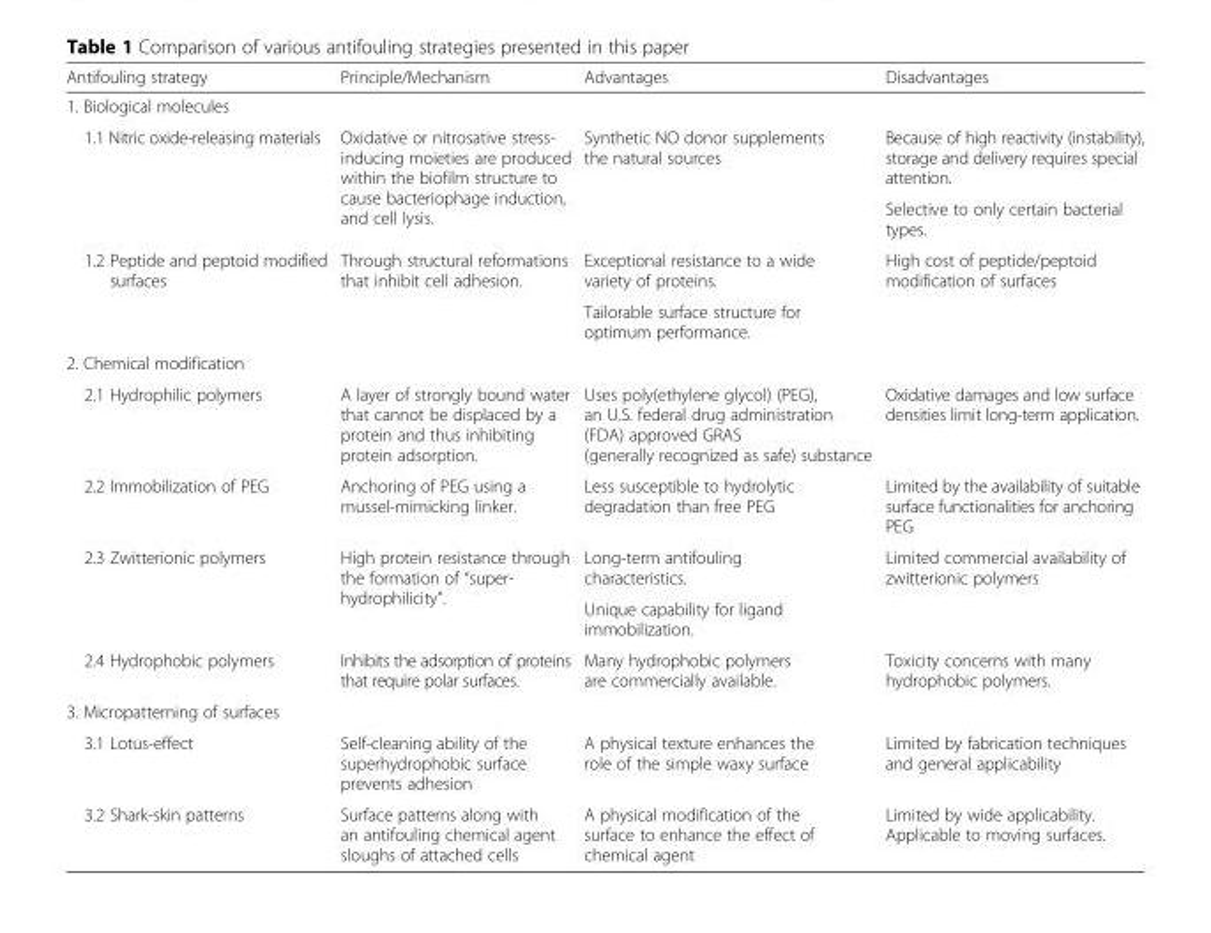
<table><thead><tr><td>Antifouling strategy</td><td>Principle/Mechanism</td><td>Advantages</td><td>Disadvantages</td></tr></thead><tbody><tr><td colspan="4">1. Biological molecules</td></tr><tr><td rowspan="2">1.1 Nitric oxide-releasing materials</td><td rowspan="2">Oxidative or nitrosative stress- inducing moieties are produced within the biofilm structure to cause bacteriophage induction, and cell lysis.</td><td rowspan="2">Synthetic NO donor supplements the natural sources</td><td>Because of high reactivity (instability), storage and delivery requires special attention.</td></tr><tr><td>Selective to only certain bacterial types.</td></tr><tr><td rowspan="2">1.2 Peptide and peptoid modified surfaces</td><td rowspan="2">Through structural reformations that inhibit cell adhesion.</td><td>Exceptional resistance to a wide variety of proteins.</td><td rowspan="2">High cost of peptide/peptoid modification of surfaces</td></tr><tr><td>Tailorable surface structure for optimum performance.</td></tr><tr><td colspan="4">2. Chemical modification</td></tr><tr><td>2.1 Hydrophilic polymers</td><td>A layer of strongly bound water that cannot be displaced by a protein and thus inhibiting protein adsorption.</td><td>Uses poly(ethylene glycol) (PEG), an U.S. federal drug administration (FDA) approved GRAS (generally recognized as safe) substance</td><td>Oxidative damages and low surface densities limit long-term application.</td></tr><tr><td>2.2 Immobilization of PEG</td><td>Anchoring of PEG using a mussel-mimicking linker.</td><td>Less susceptible to hydrolytic degradation than free PEG</td><td>Limited by the availability of suitable surface functionalities for anchoring PEG</td></tr><tr><td rowspan="2">2.3 Zwitterionic polymers</td><td rowspan="2">High protein resistance through the formation of “super- hydrophilicity”.</td><td>Long-term antifouling characteristics.</td><td rowspan="2">Limited commercial availability of zwitterionic polymers</td></tr><tr><td>Unique capability for ligand immobilization.</td></tr><tr><td>2.4 Hydrophobic polymers</td><td>Inhibits the adsorption of proteins that require polar surfaces.</td><td>Many hydrophobic polymers are commercially available.</td><td>Toxicity concerns with many hydrophobic polymers.</td></tr><tr><td colspan="4">3. Micropatterning of surfaces</td></tr><tr><td>3.1 Lotus-effect</td><td>Self-cleaning ability of the superhydrophobic surface prevents adhesion</td><td>A physical texture enhances the role of the simple waxy surface</td><td>Limited by fabrication techniques and general applicability</td></tr><tr><td>3.2 Shark-skin patterns</td><td>Surface patterns along with an antifouling chemical agent sloughs of attached cells</td><td>A physical modification of the surface to enhance the effect of chemical agent</td><td>Limited by wide applicability. Applicable to moving surfaces.</td></tr></tbody></table>